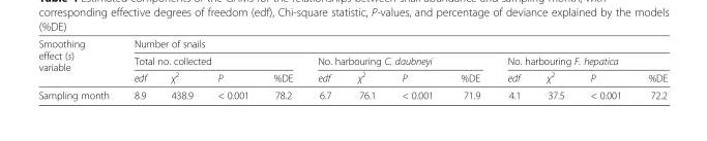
<table><thead><tr><td rowspan="3">Smoothing effect (s) variable</td><td colspan="12">Number of snails</td></tr><tr><td colspan="4">Total no. collected</td><td colspan="4">No. harbouring C. daubneyi</td><td colspan="4">No. harbouring F. hepatica</td></tr><tr><td>edf</td><td>χ<sup>2</sup></td><td>P</td><td>%DE</td><td>edf</td><td>χ<sup>2</sup></td><td>P</td><td>%DE</td><td>edf</td><td>χ<sup>2</sup></td><td>P</td><td>%DE</td></tr></thead><tbody><tr><td>Sampling month</td><td>8.9</td><td>438.9</td><td>&lt; 0.001</td><td>78.2</td><td>6.7</td><td>76.1</td><td>&lt; 0.001</td><td>71.9</td><td>4.1</td><td>37.5</td><td>&lt; 0.001</td><td>72.2</td></tr></tbody></table>